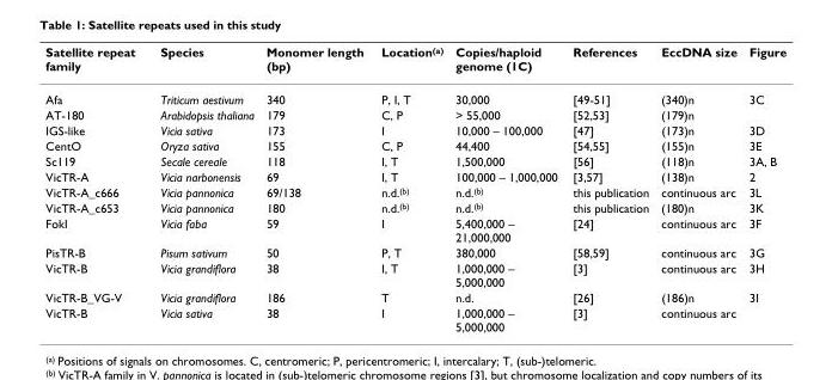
<table><thead><tr><td>Satellite repeat family</td><td>Species</td><td>Monomer length (bp)</td><td>Location<sup>(a)</sup></td><td>Copies/haploid genome (1C)</td><td>References</td><td>EccDNA size</td><td>Figure</td></tr></thead><tbody><tr><td>Afa</td><td>Triticum aestivum</td><td>340</td><td>P, I, T</td><td>30,000</td><td>[49-51]</td><td>(340)n</td><td>3C</td></tr><tr><td>AT-180</td><td>Arabidopsis thaliana</td><td>179</td><td>C, P</td><td>&gt; 55,000</td><td>[52,53]</td><td>(179)n</td><td></td></tr><tr><td>IGS-like</td><td>Vicia sativa</td><td>173</td><td>I</td><td>10,000 – 100,000</td><td>[47]</td><td>(173)n</td><td>3D</td></tr><tr><td>CentO</td><td>Oryza sativa</td><td>155</td><td>C, P</td><td>44,400</td><td>[54,55]</td><td>(155)n</td><td>3E</td></tr><tr><td>Sc119</td><td>Secale cereale</td><td>118</td><td>I, T</td><td>1,500,000</td><td>[56]</td><td>(118)n</td><td>3A, B</td></tr><tr><td>VicTR-A</td><td>Vicia narbonensis</td><td>69</td><td>I, T</td><td>100,000 – 1,000,000</td><td>[3,57]</td><td>(138)n</td><td>2</td></tr><tr><td>VicTR-A_c666</td><td>Vicia pannonica</td><td>69/138</td><td>n.d.<sup>(b)</sup></td><td>n.d.<sup>(b)</sup></td><td>this publication</td><td>continuous arc</td><td>3L</td></tr><tr><td>VicTR-A_c653</td><td>Vicia pannonica</td><td>180</td><td>n.d.<sup>(b)</sup></td><td>n.d.<sup>(b)</sup></td><td>this publication</td><td>(180)n</td><td>3K</td></tr><tr><td>FokI</td><td>Vicia faba</td><td>59</td><td>I</td><td>5,400,000 – 21,000,000</td><td>[24]</td><td>continuous arc</td><td>3F</td></tr><tr><td>PisTR-B</td><td>Pisum sativum</td><td>50</td><td>P, T</td><td>380,000</td><td>[58,59]</td><td>continuous arc</td><td>3G</td></tr><tr><td>VicTR-B</td><td>Vicia grandiflora</td><td>38</td><td>I, T</td><td>1,000,000 – 5,000,000</td><td>[3]</td><td>continuous arc</td><td>3H</td></tr><tr><td>VicTR-B_VG-V</td><td>Vicia grandiflora</td><td>186</td><td>T</td><td>n.d.</td><td>[26]</td><td>(186)n</td><td>3I</td></tr><tr><td>VicTR-B</td><td>Vicia sativa</td><td>38</td><td>I</td><td>1,000,000 – 5,000,000</td><td>[3]</td><td>continuous arc</td><td></td></tr></tbody></table>